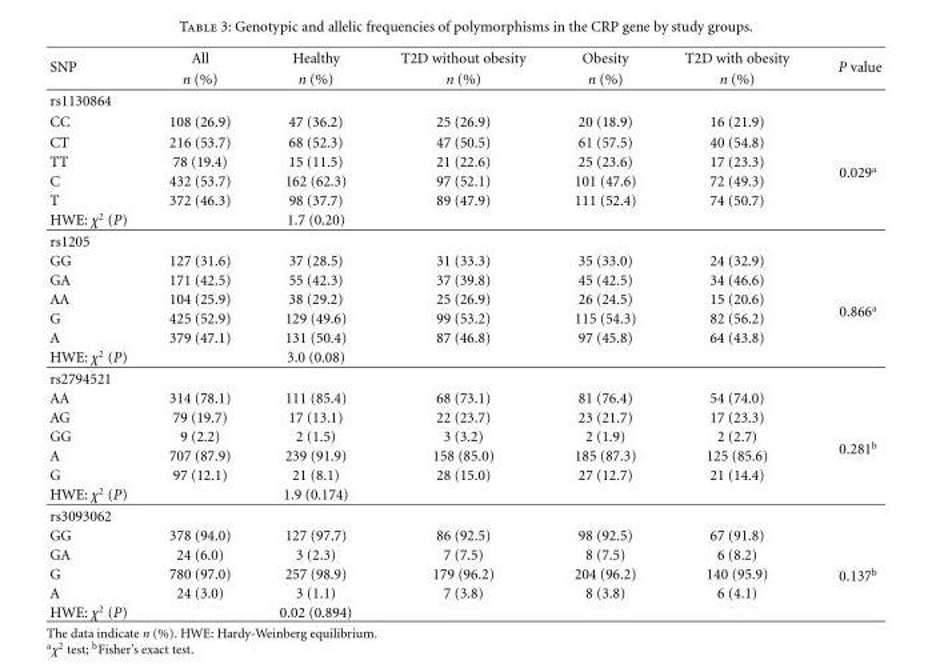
<table><thead><tr><td rowspan="2">SNP</td><td rowspan="2">All n (%)</td><td rowspan="2">Healthy n (%)</td><td rowspan="2">T2D without obesity n (%)</td><td rowspan="2">Obesity n (%)</td><td rowspan="2">T2D with obesity n (%)</td><td rowspan="2">P value</td></tr><tr></tr></thead><tbody><tr><td colspan="7">rs1130864</td></tr><tr><td>CC</td><td>108 (26.9)</td><td>47 (36.2)</td><td>25 (26.9)</td><td>20 (18.9)</td><td>16 (21.9)</td><td rowspan="6">0.029<sup>a</sup></td></tr><tr><td>CT</td><td>216 (53.7)</td><td>68 (52.3)</td><td>47 (50.5)</td><td>61 (57.5)</td><td>40 (54.8)</td></tr><tr><td>TT</td><td>78 (19.4)</td><td>15 (11.5)</td><td>21 (22.6)</td><td>25 (23.6)</td><td>17 (23.3)</td></tr><tr><td>C</td><td>432 (53.7)</td><td>162 (62.3)</td><td>97 (52.1)</td><td>101 (47.6)</td><td>72 (49.3)</td></tr><tr><td>T</td><td>372 (46.3)</td><td>98 (37.7)</td><td>89 (47.9)</td><td>111 (52.4)</td><td>74 (50.7)</td></tr><tr><td>HWE: χ<sup>2</sup> (P)</td><td></td><td>1.7 (0.20)</td><td></td><td></td><td></td></tr><tr><td colspan="7">rs1205</td></tr><tr><td>GG</td><td>127 (31.6)</td><td>37 (28.5)</td><td>31 (33.3)</td><td>35 (33.0)</td><td>24 (32.9)</td><td rowspan="6">0.866<sup>a</sup></td></tr><tr><td>GA</td><td>171 (42.5)</td><td>55 (42.3)</td><td>37 (39.8)</td><td>45 (42.5)</td><td>34 (46.6)</td></tr><tr><td>AA</td><td>104 (25.9)</td><td>38 (29.2)</td><td>25 (26.9)</td><td>26 (24.5)</td><td>15 (20.6)</td></tr><tr><td>G</td><td>425 (52.9)</td><td>129 (49.6)</td><td>99 (53.2)</td><td>115 (54.3)</td><td>82 (56.2)</td></tr><tr><td>A</td><td>379 (47.1)</td><td>131 (50.4)</td><td>87 (46.8)</td><td>97 (45.8)</td><td>64 (43.8)</td></tr><tr><td>HWE: χ<sup>2</sup> (P)</td><td></td><td>3.0 (0.08)</td><td></td><td></td><td></td></tr><tr><td colspan="7">rs2794521</td></tr><tr><td>AA</td><td>314 (78.1)</td><td>111 (85.4)</td><td>68 (73.1)</td><td>81 (76.4)</td><td>54 (74.0)</td><td rowspan="6">0.281<sup>b</sup></td></tr><tr><td>AG</td><td>79 (19.7)</td><td>17 (13.1)</td><td>22 (23.7)</td><td>23 (21.7)</td><td>17 (23.3)</td></tr><tr><td>GG</td><td>9 (2.2)</td><td>2 (1.5)</td><td>3 (3.2)</td><td>2 (1.9)</td><td>2 (2.7)</td></tr><tr><td>A</td><td>707 (87.9)</td><td>239 (91.9)</td><td>158 (85.0)</td><td>185 (87.3)</td><td>125 (85.6)</td></tr><tr><td>G</td><td>97 (12.1)</td><td>21 (8.1)</td><td>28 (15.0)</td><td>27 (12.7)</td><td>21 (14.4)</td></tr><tr><td>HWE: χ<sup>2</sup> (P)</td><td></td><td>1.9 (0.174)</td><td></td><td></td><td></td></tr><tr><td colspan="7">rs3093062</td></tr><tr><td>GG</td><td>378 (94.0)</td><td>127 (97.7)</td><td>86 (92.5)</td><td>98 (92.5)</td><td>67 (91.8)</td><td rowspan="5">0.137<sup>b</sup></td></tr><tr><td>GA</td><td>24 (6.0)</td><td>3 (2.3)</td><td>7 (7.5)</td><td>8 (7.5)</td><td>6 (8.2)</td></tr><tr><td>G</td><td>780 (97.0)</td><td>257 (98.9)</td><td>179 (96.2)</td><td>204 (96.2)</td><td>140 (95.9)</td></tr><tr><td>A</td><td>24 (3.0)</td><td>3 (1.1)</td><td>7 (3.8)</td><td>8 (3.8)</td><td>6 (4.1)</td></tr><tr><td>HWE: χ<sup>2</sup> (P)</td><td></td><td>0.02 (0.894)</td><td></td><td></td><td></td></tr></tbody></table>